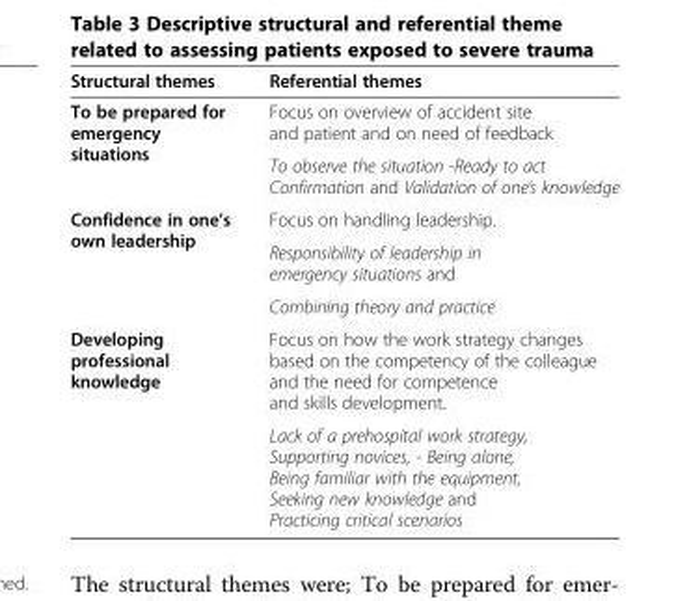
<table><thead><tr><td>Structural themes</td><td>Referential themes</td></tr></thead><tbody><tr><td rowspan="2">To be prepared for emergency situations</td><td>Focus on overview of accident site and patient and on need of feedback</td></tr><tr><td>To observe the situation -Ready to act Confirmation and Validation of one’s knowledge</td></tr><tr><td rowspan="3">Confidence in one’s own leadership</td><td>Focus on handling leadership.</td></tr><tr><td>Responsibility of leadership in emergency situations and</td></tr><tr><td>Combining theory and practice</td></tr><tr><td rowspan="2">Developing professional knowledge</td><td>Focus on how the work strategy changes based on the competency of the colleague and the need for competence and skills development.</td></tr><tr><td>Lack of a prehospital work strategy, Supporting novices, - Being alone, Being familiar with the equipment, Seeking new knowledge and Practicing critical scenarios</td></tr></tbody></table>